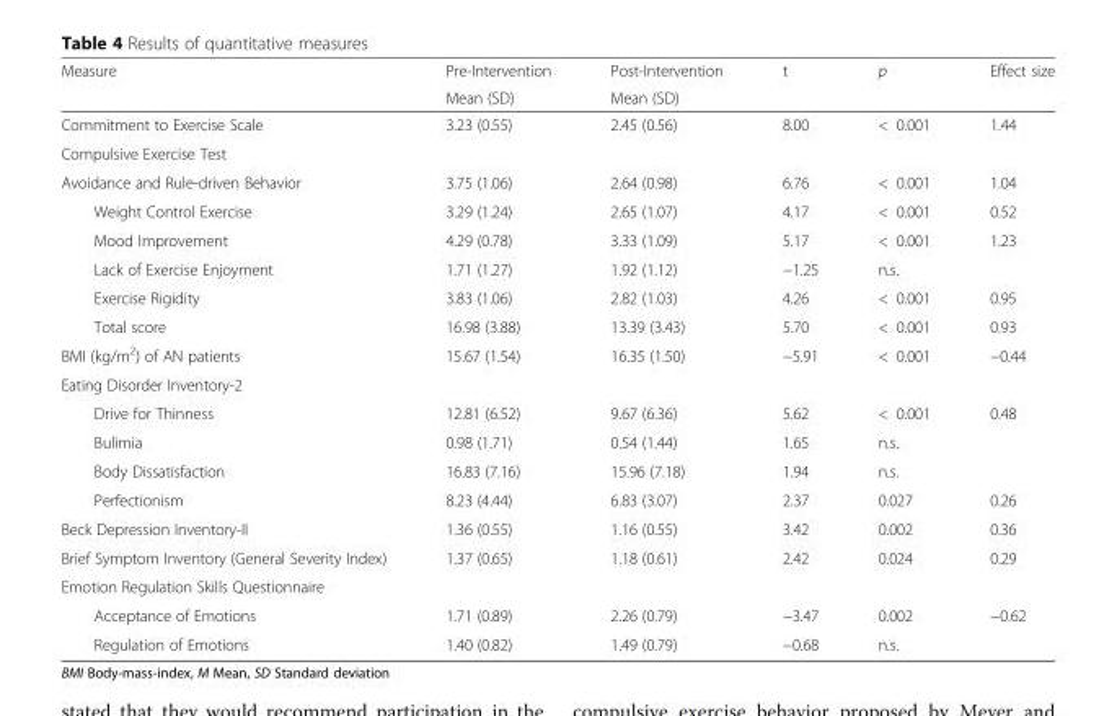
<table><thead><tr><td rowspan="2">Measure</td><td rowspan="2">Pre-Intervention Mean (SD)</td><td rowspan="2">Post-Intervention Mean (SD)</td><td rowspan="2">t</td><td rowspan="2">p</td><td rowspan="2">Effect size</td></tr><tr></tr></thead><tbody><tr><td>Commitment to Exercise Scale</td><td>3.23 (0.55)</td><td>2.45 (0.56)</td><td>8.00</td><td>&lt; 0.001</td><td>1.44</td></tr><tr><td colspan="6">Compulsive Exercise Test</td></tr><tr><td>Avoidance and Rule-driven Behavior</td><td>3.75 (1.06)</td><td>2.64 (0.98)</td><td>6.76</td><td>&lt; 0.001</td><td>1.04</td></tr><tr><td>Weight Control Exercise</td><td>3.29 (1.24)</td><td>2.65 (1.07)</td><td>4.17</td><td>&lt; 0.001</td><td>0.52</td></tr><tr><td>Mood Improvement</td><td>4.29 (0.78)</td><td>3.33 (1.09)</td><td>5.17</td><td>&lt; 0.001</td><td>1.23</td></tr><tr><td>Lack of Exercise Enjoyment</td><td>1.71 (1.27)</td><td>1.92 (1.12)</td><td>−1.25</td><td>n.s.</td><td></td></tr><tr><td>Exercise Rigidity</td><td>3.83 (1.06)</td><td>2.82 (1.03)</td><td>4.26</td><td>&lt; 0.001</td><td>0.95</td></tr><tr><td>Total score</td><td>16.98 (3.88)</td><td>13.39 (3.43)</td><td>5.70</td><td>&lt; 0.001</td><td>0.93</td></tr><tr><td>BMI (kg/m<sup>2</sup>) of AN patients</td><td>15.67 (1.54)</td><td>16.35 (1.50)</td><td>−5.91</td><td>&lt; 0.001</td><td>−0.44</td></tr><tr><td colspan="6">Eating Disorder Inventory-2</td></tr><tr><td>Drive for Thinness</td><td>12.81 (6.52)</td><td>9.67 (6.36)</td><td>5.62</td><td>&lt; 0.001</td><td>0.48</td></tr><tr><td>Bulimia</td><td>0.98 (1.71)</td><td>0.54 (1.44)</td><td>1.65</td><td>n.s.</td><td></td></tr><tr><td>Body Dissatisfaction</td><td>16.83 (7.16)</td><td>15.96 (7.18)</td><td>1.94</td><td>n.s.</td><td></td></tr><tr><td>Perfectionism</td><td>8.23 (4.44)</td><td>6.83 (3.07)</td><td>2.37</td><td>0.027</td><td>0.26</td></tr><tr><td>Beck Depression Inventory-II</td><td>1.36 (0.55)</td><td>1.16 (0.55)</td><td>3.42</td><td>0.002</td><td>0.36</td></tr><tr><td>Brief Symptom Inventory (General Severity Index)</td><td>1.37 (0.65)</td><td>1.18 (0.61)</td><td>2.42</td><td>0.024</td><td>0.29</td></tr><tr><td colspan="6">Emotion Regulation Skills Questionnaire</td></tr><tr><td>Acceptance of Emotions</td><td>1.71 (0.89)</td><td>2.26 (0.79)</td><td>−3.47</td><td>0.002</td><td>−0.62</td></tr><tr><td>Regulation of Emotions</td><td>1.40 (0.82)</td><td>1.49 (0.79)</td><td>−0.68</td><td>n.s.</td><td></td></tr></tbody></table>